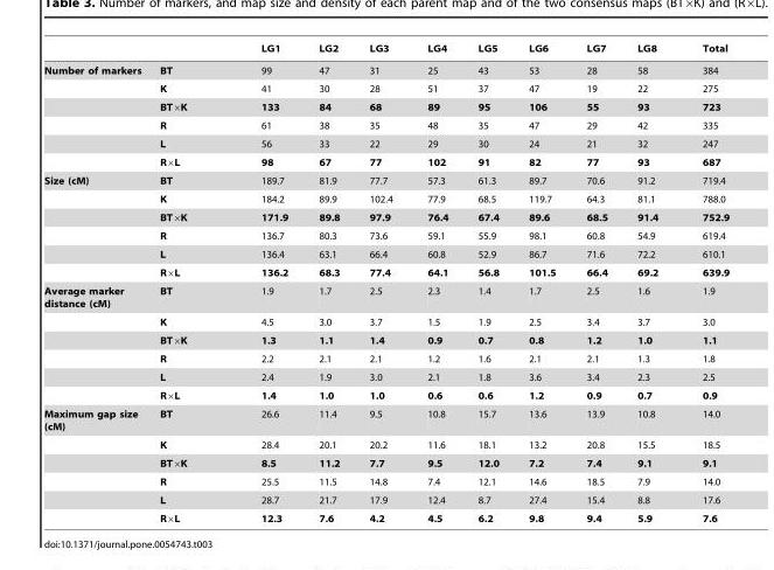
<table><thead><tr><td></td><td></td><td>LG1</td><td>LG2</td><td>LG3</td><td>LG4</td><td>LG5</td><td>LG6</td><td>LG7</td><td>LG8</td><td>Total</td></tr></thead><tbody><tr><td rowspan="6">Number of markers</td><td>BT</td><td>99</td><td>47</td><td>31</td><td>25</td><td>43</td><td>53</td><td>28</td><td>58</td><td>384</td></tr><tr><td>K</td><td>41</td><td>30</td><td>28</td><td>51</td><td>37</td><td>47</td><td>19</td><td>22</td><td>275</td></tr><tr><td>BT×K</td><td>133</td><td>84</td><td>68</td><td>89</td><td>95</td><td>106</td><td>55</td><td>93</td><td>723</td></tr><tr><td>R</td><td>61</td><td>38</td><td>35</td><td>48</td><td>35</td><td>47</td><td>29</td><td>42</td><td>335</td></tr><tr><td>L</td><td>56</td><td>33</td><td>22</td><td>29</td><td>30</td><td>24</td><td>21</td><td>32</td><td>247</td></tr><tr><td>R×L</td><td>98</td><td>67</td><td>77</td><td>102</td><td>91</td><td>82</td><td>77</td><td>93</td><td>687</td></tr><tr><td rowspan="6">Size (cM)</td><td>BT</td><td>189.7</td><td>81.9</td><td>77.7</td><td>57.3</td><td>61.3</td><td>89.7</td><td>70.6</td><td>91.2</td><td>719.4</td></tr><tr><td>K</td><td>184.2</td><td>89.9</td><td>102.4</td><td>77.9</td><td>68.5</td><td>119.7</td><td>64.3</td><td>81.1</td><td>788.0</td></tr><tr><td>BT×K</td><td>171.9</td><td>89.8</td><td>97.9</td><td>76.4</td><td>67.4</td><td>89.6</td><td>68.5</td><td>91.4</td><td>752.9</td></tr><tr><td>R</td><td>136.7</td><td>80.3</td><td>73.6</td><td>59.1</td><td>55.9</td><td>98.1</td><td>60.8</td><td>54.9</td><td>619.4</td></tr><tr><td>L</td><td>136.4</td><td>63.1</td><td>66.4</td><td>60.8</td><td>52.9</td><td>86.7</td><td>71.6</td><td>72.2</td><td>610.1</td></tr><tr><td>R×L</td><td>136.2</td><td>68.3</td><td>77.4</td><td>64.1</td><td>56.8</td><td>101.5</td><td>66.4</td><td>69.2</td><td>639.9</td></tr><tr><td rowspan="6">Average marker distance (cM)</td><td>BT</td><td>1.9</td><td>1.7</td><td>2.5</td><td>2.3</td><td>1.4</td><td>1.7</td><td>2.5</td><td>1.6</td><td>1.9</td></tr><tr><td>K</td><td>4.5</td><td>3.0</td><td>3.7</td><td>1.5</td><td>1.9</td><td>2.5</td><td>3.4</td><td>3.7</td><td>3.0</td></tr><tr><td>BT×K</td><td>1.3</td><td>1.1</td><td>1.4</td><td>0.9</td><td>0.7</td><td>0.8</td><td>1.2</td><td>1.0</td><td>1.1</td></tr><tr><td>R</td><td>2.2</td><td>2.1</td><td>2.1</td><td>1.2</td><td>1.6</td><td>2.1</td><td>2.1</td><td>1.3</td><td>1.8</td></tr><tr><td>L</td><td>2.4</td><td>1.9</td><td>3.0</td><td>2.1</td><td>1.8</td><td>3.6</td><td>3.4</td><td>2.3</td><td>2.5</td></tr><tr><td>R×L</td><td>1.4</td><td>1.0</td><td>1.0</td><td>0.6</td><td>0.6</td><td>1.2</td><td>0.9</td><td>0.7</td><td>0.9</td></tr><tr><td rowspan="6">Maximum gap size (cM)</td><td>BT</td><td>26.6</td><td>11.4</td><td>9.5</td><td>10.8</td><td>15.7</td><td>13.6</td><td>13.9</td><td>10.8</td><td>14.0</td></tr><tr><td>K</td><td>28.4</td><td>20.1</td><td>20.2</td><td>11.6</td><td>18.1</td><td>13.2</td><td>20.8</td><td>15.5</td><td>18.5</td></tr><tr><td>BT×K</td><td>8.5</td><td>11.2</td><td>7.7</td><td>9.5</td><td>12.0</td><td>7.2</td><td>7.4</td><td>9.1</td><td>9.1</td></tr><tr><td>R</td><td>25.5</td><td>11.5</td><td>14.8</td><td>7.4</td><td>12.1</td><td>14.6</td><td>18.5</td><td>7.9</td><td>14.0</td></tr><tr><td>L</td><td>28.7</td><td>21.7</td><td>17.9</td><td>12.4</td><td>8.7</td><td>27.4</td><td>15.4</td><td>8.8</td><td>17.6</td></tr><tr><td>R×L</td><td>12.3</td><td>7.6</td><td>4.2</td><td>4.5</td><td>6.2</td><td>9.8</td><td>9.4</td><td>5.9</td><td>7.6</td></tr></tbody></table>